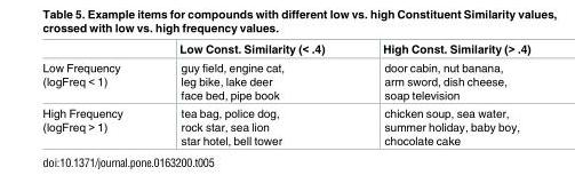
<table><thead><tr><td></td><td>Low Const. Similarity (&lt; .4)</td><td>High Const. Similarity (&gt; .4)</td></tr></thead><tbody><tr><td>Low Frequency (logFreq &lt; 1)</td><td>guy field, engine cat, leg bike, lake deer face bed, pipe book</td><td>door cabin, nut banana, arm sword, dish cheese, soap television</td></tr><tr><td>High Frequency (logFreq &gt; 1)</td><td>tea bag, police dog, rock star, sea lion star hotel, bell tower</td><td>chicken soup, sea water, summer holiday, baby boy, chocolate cake</td></tr></tbody></table>